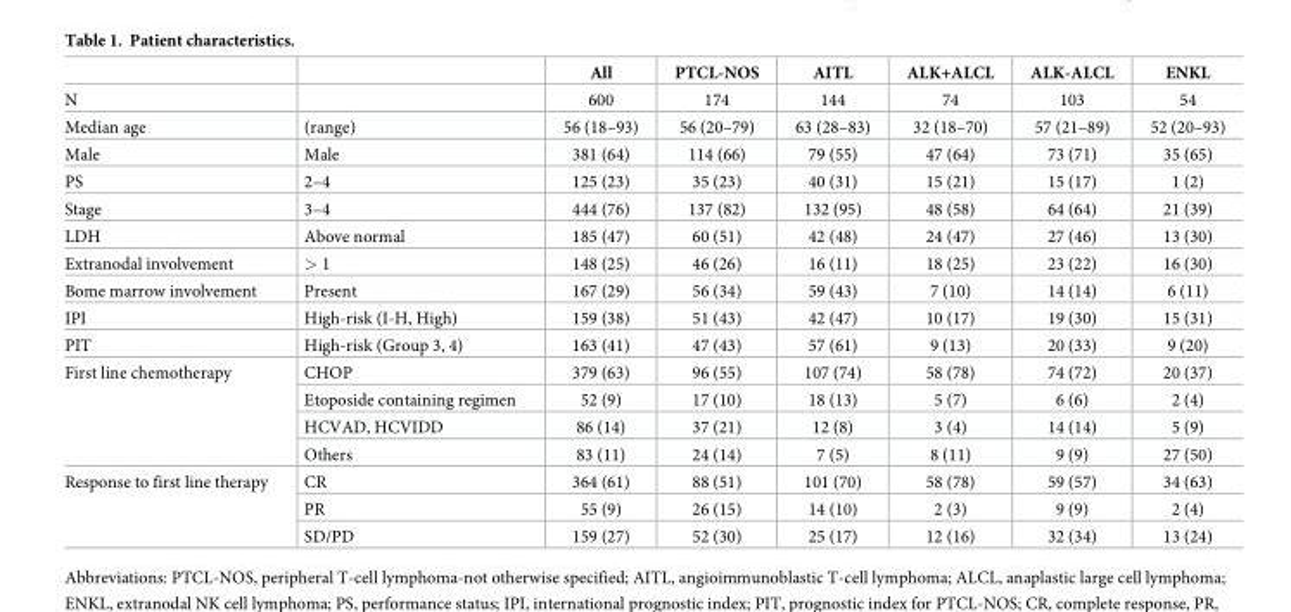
<table><thead><tr><td></td><td></td><td>All</td><td>PTCL-NOS</td><td>AITL</td><td>ALK+ALCL</td><td>ALK-ALCL</td><td>ENKL</td></tr></thead><tbody><tr><td>N</td><td></td><td>600</td><td>174</td><td>144</td><td>74</td><td>103</td><td>54</td></tr><tr><td>Median age</td><td>(range)</td><td>56 (18–93)</td><td>56 (20–79)</td><td>63 (28–83)</td><td>32 (18–70)</td><td>57 (21–89)</td><td>52 (20–93)</td></tr><tr><td>Male</td><td>Male</td><td>381 (64)</td><td>114 (66)</td><td>79 (55)</td><td>47 (64)</td><td>73 (71)</td><td>35 (65)</td></tr><tr><td>PS</td><td>2–4</td><td>125 (23)</td><td>35 (23)</td><td>40 (31)</td><td>15 (21)</td><td>15 (17)</td><td>1 (2)</td></tr><tr><td>Stage</td><td>3–4</td><td>444 (76)</td><td>137 (82)</td><td>132 (95)</td><td>48 (58)</td><td>64 (64)</td><td>21 (39)</td></tr><tr><td>LDH</td><td>Above normal</td><td>185 (47)</td><td>60 (51)</td><td>42 (48)</td><td>24 (47)</td><td>27 (46)</td><td>13 (30)</td></tr><tr><td>Extranodal involvement</td><td>&gt; 1</td><td>148 (25)</td><td>46 (26)</td><td>16 (11)</td><td>18 (25)</td><td>23 (22)</td><td>16 (30)</td></tr><tr><td>Bome marrow involvement</td><td>Present</td><td>167 (29)</td><td>56 (34)</td><td>59 (43)</td><td>7 (10)</td><td>14 (14)</td><td>6 (11)</td></tr><tr><td>IPI</td><td>High-risk (I-H, High)</td><td>159 (38)</td><td>51 (43)</td><td>42 (47)</td><td>10 (17)</td><td>19 (30)</td><td>15 (31)</td></tr><tr><td>PIT</td><td>High-risk (Group 3, 4)</td><td>163 (41)</td><td>47 (43)</td><td>57 (61)</td><td>9 (13)</td><td>20 (33)</td><td>9 (20)</td></tr><tr><td rowspan="4">First line chemotherapy</td><td>CHOP</td><td>379 (63)</td><td>96 (55)</td><td>107 (74)</td><td>58 (78)</td><td>74 (72)</td><td>20 (37)</td></tr><tr><td>Etoposide containing regimen</td><td>52 (9)</td><td>17 (10)</td><td>18 (13)</td><td>5 (7)</td><td>6 (6)</td><td>2 (4)</td></tr><tr><td>HCVAD, HCVIDD</td><td>86 (14)</td><td>37 (21)</td><td>12 (8)</td><td>3 (4)</td><td>14 (14)</td><td>5 (9)</td></tr><tr><td>Others</td><td>83 (11)</td><td>24 (14)</td><td>7 (5)</td><td>8 (11)</td><td>9 (9)</td><td>27 (50)</td></tr><tr><td rowspan="3">Response to first line therapy</td><td>CR</td><td>364 (61)</td><td>88 (51)</td><td>101 (70)</td><td>58 (78)</td><td>59 (57)</td><td>34 (63)</td></tr><tr><td>PR</td><td>55 (9)</td><td>26 (15)</td><td>14 (10)</td><td>2 (3)</td><td>9 (9)</td><td>2 (4)</td></tr><tr><td>SD/PD</td><td>159 (27)</td><td>52 (30)</td><td>25 (17)</td><td>12 (16)</td><td>32 (34)</td><td>13 (24)</td></tr></tbody></table>